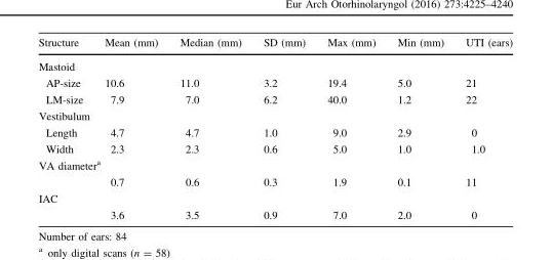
<table><thead><tr><td>Structure</td><td>Mean (mm)</td><td>Median (mm)</td><td>SD (mm)</td><td>Max (mm)</td><td>Min (mm)</td><td>UTI (ears)</td></tr></thead><tbody><tr><td colspan="7">Mastoid</td></tr><tr><td>AP-size</td><td>10.6</td><td>11.0</td><td>3.2</td><td>19.4</td><td>5.0</td><td>21</td></tr><tr><td>LM-size</td><td>7.9</td><td>7.0</td><td>6.2</td><td>40.0</td><td>1.2</td><td>22</td></tr><tr><td colspan="7">Vestibulum</td></tr><tr><td>Length</td><td>4.7</td><td>4.7</td><td>1.0</td><td>9.0</td><td>2.9</td><td>0</td></tr><tr><td>Width</td><td>2.3</td><td>2.3</td><td>0.6</td><td>5.0</td><td>1.0</td><td>1.0</td></tr><tr><td colspan="7">VA diameter<sup>a</sup></td></tr><tr><td></td><td>0.7</td><td>0.6</td><td>0.3</td><td>1.9</td><td>0.1</td><td>11</td></tr><tr><td colspan="7">IAC</td></tr><tr><td></td><td>3.6</td><td>3.5</td><td>0.9</td><td>7.0</td><td>2.0</td><td>0</td></tr></tbody></table>